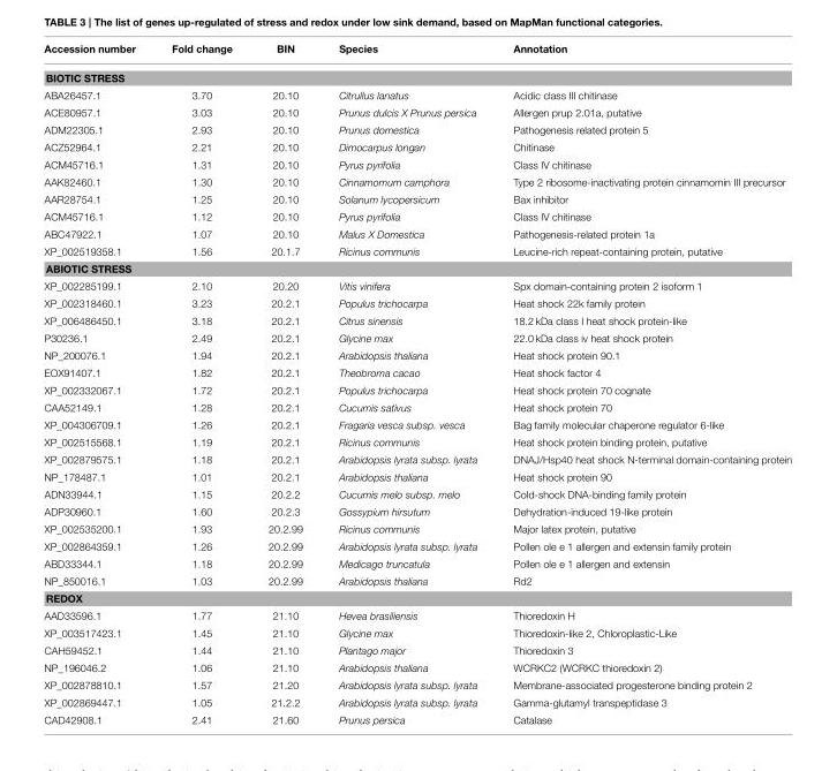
<table><thead><tr><td>Accession number</td><td>Fold change</td><td>BIN</td><td>Species</td><td>Annotation</td></tr></thead><tbody><tr><td colspan="5">BIOTIC STRESS</td></tr><tr><td>ABA26457.1</td><td>3.70</td><td>20.10</td><td>Citrullus lanatus</td><td>Acidic class III chitinase</td></tr><tr><td>ACE80957.1</td><td>3.03</td><td>20.10</td><td>Prunus dulcis X Prunus persica</td><td>Allergen prup 2.01a, putative</td></tr><tr><td>ADM22305.1</td><td>2.93</td><td>20.10</td><td>Prunus domestica</td><td>Pathogenesis related protein 5</td></tr><tr><td>ACZ52964.1</td><td>2.21</td><td>20.10</td><td>Dimocarpus longan</td><td>Chitinase</td></tr><tr><td>ACM45716.1</td><td>1.31</td><td>20.10</td><td>Pyrus pyrifolia</td><td>Class IV chitinase</td></tr><tr><td>AAK82460.1</td><td>1.30</td><td>20.10</td><td>Cinnamomum camphora</td><td>Type 2 ribosome-inactivating protein cinnamomin III precursor</td></tr><tr><td>AAR28754.1</td><td>1.25</td><td>20.10</td><td>Solanum lycopersicum</td><td>Bax inhibitor</td></tr><tr><td>ACM45716.1</td><td>1.12</td><td>20.10</td><td>Pyrus pyrifolia</td><td>Class IV chitinase</td></tr><tr><td>ABC47922.1</td><td>1.07</td><td>20.10</td><td>Malus X Domestica</td><td>Pathogenesis-related protein 1a</td></tr><tr><td>XP_002519358.1</td><td>1.56</td><td>20.1.7</td><td>Ricinus communis</td><td>Leucine-rich repeat-containing protein, putative</td></tr><tr><td colspan="5">ABIOTIC STRESS</td></tr><tr><td>XP_002285199.1</td><td>2.10</td><td>20.20</td><td>Vitis vinifera</td><td>Spx domain-containing protein 2 isoform 1</td></tr><tr><td>XP_002318460.1</td><td>3.23</td><td>20.2.1</td><td>Populus trichocarpa</td><td>Heat shock 22k family protein</td></tr><tr><td>XP_006486450.1</td><td>3.18</td><td>20.2.1</td><td>Citrus sinensis</td><td>18.2 kDa class I heat shock protein-like</td></tr><tr><td>P30236.1</td><td>2.49</td><td>20.2.1</td><td>Glycine max</td><td>22.0 kDa class iv heat shock protein</td></tr><tr><td>NP_200076.1</td><td>1.94</td><td>20.2.1</td><td>Arabidopsis thaliana</td><td>Heat shock protein 90.1</td></tr><tr><td>EOX91407.1</td><td>1.82</td><td>20.2.1</td><td>Theobroma cacao</td><td>Heat shock factor 4</td></tr><tr><td>XP_002332067.1</td><td>1.72</td><td>20.2.1</td><td>Populus trichocarpa</td><td>Heat shock protein 70 cognate</td></tr><tr><td>CAA52149.1</td><td>1.28</td><td>20.2.1</td><td>Cucumis sativus</td><td>Heat shock protein 70</td></tr><tr><td>XP_004306709.1</td><td>1.26</td><td>20.2.1</td><td>Fragaria vesca subsp. vesca</td><td>Bag family molecular chaperone regulator 6-like</td></tr><tr><td>XP_002515568.1</td><td>1.19</td><td>20.2.1</td><td>Ricinus communis</td><td>Heat shock protein binding protein, putative</td></tr><tr><td>XP_002879575.1</td><td>1.18</td><td>20.2.1</td><td>Arabidopsis lyrata subsp. lyrata</td><td>DNAJ/Hsp40 heat shock N-terminal domain-containing protein</td></tr><tr><td>NP_178487.1</td><td>1.01</td><td>20.2.1</td><td>Arabidopsis thaliana</td><td>Heat shock protein 90</td></tr><tr><td>ADN33944.1</td><td>1.15</td><td>20.2.2</td><td>Cucumis melo subsp. melo</td><td>Cold-shock DNA-binding family protein</td></tr><tr><td>ADP30960.1</td><td>1.60</td><td>20.2.3</td><td>Gossypium hirsutum</td><td>Dehydration-induced 19-like protein</td></tr><tr><td>XP_002535200.1</td><td>1.93</td><td>20.2.99</td><td>Ricinus communis</td><td>Major latex protein, putative</td></tr><tr><td>XP_002864359.1</td><td>1.26</td><td>20.2.99</td><td>Arabidopsis lyrata subsp. lyrata</td><td>Pollen ole e 1 allergen and extensin family protein</td></tr><tr><td>ABD33344.1</td><td>1.18</td><td>20.2.99</td><td>Medicago truncatula</td><td>Pollen ole e 1 allergen and extensin</td></tr><tr><td>NP_850016.1</td><td>1.03</td><td>20.2.99</td><td>Arabidopsis thaliana</td><td>Rd2</td></tr><tr><td colspan="5">REDOX</td></tr><tr><td>AAD33596.1</td><td>1.77</td><td>21.10</td><td>Hevea brasiliensis</td><td>Thioredoxin H</td></tr><tr><td>XP_003517423.1</td><td>1.45</td><td>21.10</td><td>Glycine max</td><td>Thioredoxin-like 2, Chloroplastic-Like</td></tr><tr><td>CAH59452.1</td><td>1.44</td><td>21.10</td><td>Plantago major</td><td>Thioredoxin 3</td></tr><tr><td>NP_196046.2</td><td>1.06</td><td>21.10</td><td>Arabidopsis thaliana</td><td>WCRKC2 (WCRKC thioredoxin 2)</td></tr><tr><td>XP_002878810.1</td><td>1.57</td><td>21.20</td><td>Arabidopsis lyrata subsp. lyrata</td><td>Membrane-associated progesterone binding protein 2</td></tr><tr><td>XP_002869447.1</td><td>1.05</td><td>21.2.2</td><td>Arabidopsis lyrata subsp. lyrata</td><td>Gamma-glutamyl transpeptidase 3</td></tr><tr><td>CAD42908.1</td><td>2.41</td><td>21.60</td><td>Prunus persica</td><td>Catalase</td></tr></tbody></table>